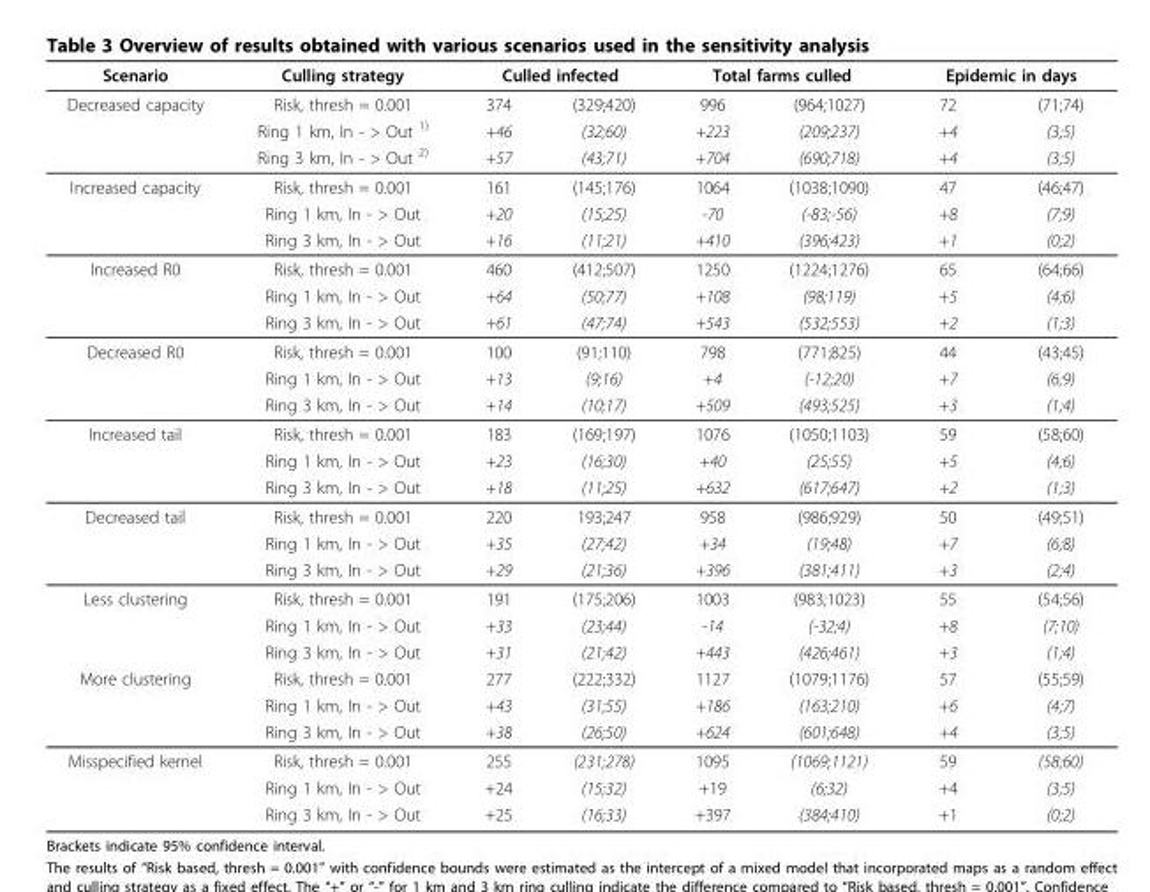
<table><thead><tr><td rowspan="2">Scenario Decreased capacity</td><td rowspan="2">Culling strategy Risk, thresh = 0.001</td><td colspan="2">Culled infected</td><td colspan="2">Total farms culled</td><td colspan="2">Epidemic in days</td></tr><tr><td>374</td><td>(329;420)</td><td>996</td><td>(964;1027)</td><td>72</td><td>(71;74)</td></tr></thead><tbody><tr><td></td><td>Ring 1 km, In - &gt; Out <sup>1)</sup></td><td>+46</td><td>(32;60)</td><td>+223</td><td>(209;237)</td><td>+4</td><td>(3;5)</td></tr><tr><td></td><td>Ring 3 km, In - &gt; Out <sup>2)</sup></td><td>+57</td><td>(43;71)</td><td>+704</td><td>(690;718)</td><td>+4</td><td>(3;5)</td></tr><tr><td rowspan="3">Increased capacity</td><td>Risk, thresh = 0.001</td><td>161</td><td>(145;176)</td><td>1064</td><td>(1038;1090)</td><td>47</td><td>(46;47)</td></tr><tr><td>Ring 1 km, In - &gt; Out</td><td>+20</td><td>(15;25)</td><td>-70</td><td>(-83;-56)</td><td>+8</td><td>(7;9)</td></tr><tr><td>Ring 3 km, In - &gt; Out</td><td>+16</td><td>(11;21)</td><td>+410</td><td>(396;423)</td><td>+1</td><td>(0;2)</td></tr><tr><td rowspan="3">Increased R0</td><td>Risk, thresh = 0.001</td><td>460</td><td>(412;507)</td><td>1250</td><td>(1224;1276)</td><td>65</td><td>(64;66)</td></tr><tr><td>Ring 1 km, In - &gt; Out</td><td>+64</td><td>(50;77)</td><td>+108</td><td>(98;119)</td><td>+5</td><td>(4;6)</td></tr><tr><td>Ring 3 km, In - &gt; Out</td><td>+61</td><td>(47;74)</td><td>+543</td><td>(532;553)</td><td>+2</td><td>(1;3)</td></tr><tr><td rowspan="3">Decreased R0</td><td>Risk, thresh = 0.001</td><td>100</td><td>(91;110)</td><td>798</td><td>(771;825)</td><td>44</td><td>(43;45)</td></tr><tr><td>Ring 1 km, In - &gt; Out</td><td>+13</td><td>(9;16)</td><td>+4</td><td>(-12;20)</td><td>+7</td><td>(6;9)</td></tr><tr><td>Ring 3 km, In - &gt; Out</td><td>+14</td><td>(10;17)</td><td>+509</td><td>(493;525)</td><td>+3</td><td>(1;4)</td></tr><tr><td rowspan="3">Increased tail</td><td>Risk, thresh = 0.001</td><td>183</td><td>(169;197)</td><td>1076</td><td>(1050;1103)</td><td>59</td><td>(58;60)</td></tr><tr><td>Ring 1 km, In - &gt; Out</td><td>+23</td><td>(16;30)</td><td>+40</td><td>(25;55)</td><td>+5</td><td>(4;6)</td></tr><tr><td>Ring 3 km, In - &gt; Out</td><td>+18</td><td>(11;25)</td><td>+632</td><td>(617;647)</td><td>+2</td><td>(1;3)</td></tr><tr><td rowspan="3">Decreased tail</td><td>Risk, thresh = 0.001</td><td>220</td><td>193;247</td><td>958</td><td>(986;929)</td><td>50</td><td>(49;51)</td></tr><tr><td>Ring 1 km, In - &gt; Out</td><td>+35</td><td>(27;42)</td><td>+34</td><td>(19;48)</td><td>+7</td><td>(6;8)</td></tr><tr><td>Ring 3 km, In - &gt; Out</td><td>+29</td><td>(21;36)</td><td>+396</td><td>(381;411)</td><td>+3</td><td>(2;4)</td></tr><tr><td rowspan="3">Less clustering</td><td>Risk, thresh = 0.001</td><td>191</td><td>(175;206)</td><td>1003</td><td>(983;1023)</td><td>55</td><td>(54;56)</td></tr><tr><td>Ring 1 km, In - &gt; Out</td><td>+33</td><td>(23;44)</td><td>-14</td><td>(-32;4)</td><td>+8</td><td>(7;10)</td></tr><tr><td>Ring 3 km, In - &gt; Out</td><td>+31</td><td>(21;42)</td><td>+443</td><td>(426;461)</td><td>+3</td><td>(1;4)</td></tr><tr><td rowspan="3">More clustering</td><td>Risk, thresh = 0.001</td><td>277</td><td>(222;332)</td><td>1127</td><td>(1079;1176)</td><td>57</td><td>(55;59)</td></tr><tr><td>Ring 1 km, In - &gt; Out</td><td>+43</td><td>(31;55)</td><td>+186</td><td>(163;210)</td><td>+6</td><td>(4;7)</td></tr><tr><td>Ring 3 km, In - &gt; Out</td><td>+38</td><td>(26;50)</td><td>+624</td><td>(601;648)</td><td>+4</td><td>(3;5)</td></tr><tr><td rowspan="3">Misspecified kernel</td><td>Risk, thresh = 0.001</td><td>255</td><td>(231;278)</td><td>1095</td><td>(1069;1121)</td><td>59</td><td>(58;60)</td></tr><tr><td>Ring 1 km, In - &gt; Out</td><td>+24</td><td>(15;32)</td><td>+19</td><td>(6;32)</td><td>+4</td><td>(3;5)</td></tr><tr><td>Ring 3 km, In - &gt; Out</td><td>+25</td><td>(16;33)</td><td>+397</td><td>(384;410)</td><td>+1</td><td>(0;2)</td></tr></tbody></table>